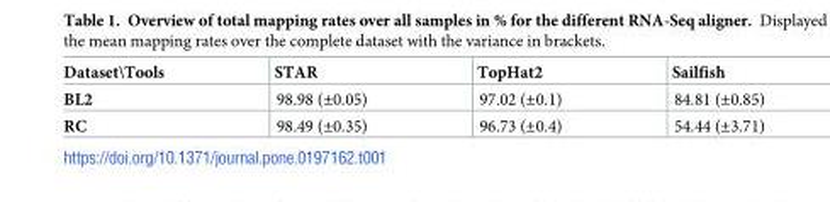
<table><thead><tr><td>Dataset\Tools</td><td>STAR</td><td>TopHat2</td><td>Sailfish</td></tr></thead><tbody><tr><td>BL2</td><td>98.98 (±0.05)</td><td>97.02 (±0.1)</td><td>84.81 (±0.85)</td></tr><tr><td>RC</td><td>98.49 (±0.35)</td><td>96.73 (±0.4)</td><td>54.44 (±3.71)</td></tr></tbody></table>